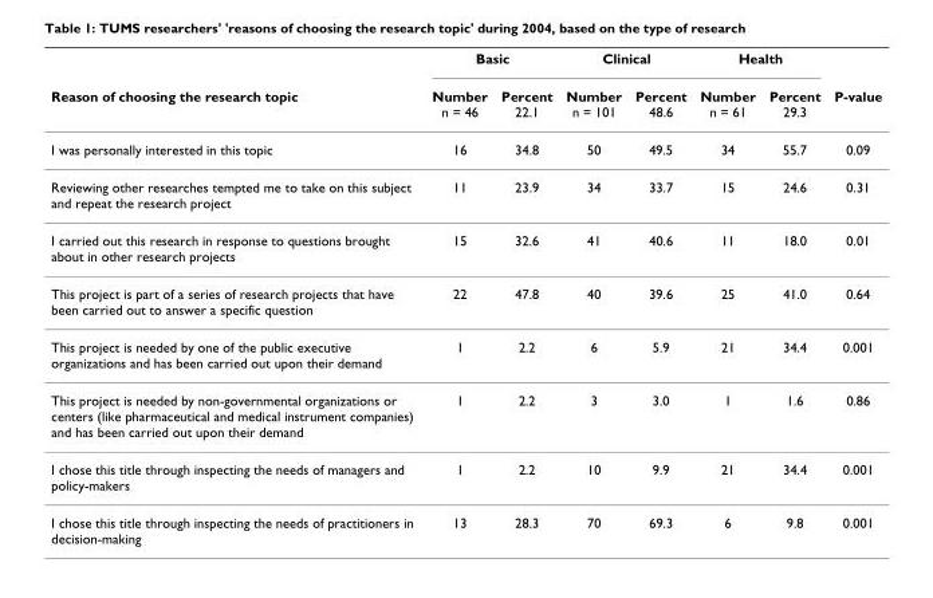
<table><thead><tr><td rowspan="2">Reason of choosing the research topic</td><td colspan="2">Basic</td><td colspan="2">Clinical</td><td colspan="2">Health</td><td rowspan="2">P-value</td></tr><tr><td>Number n = 46</td><td>Percent 22.1</td><td>Number n = 101</td><td>Percent 48.6</td><td>Number n = 61</td><td>Percent 29.3</td></tr></thead><tbody><tr><td>I was personally interested in this topic</td><td>16</td><td>34.8</td><td>50</td><td>49.5</td><td>34</td><td>55.7</td><td>0.09</td></tr><tr><td>Reviewing other researches tempted me to take on this subject and repeat the research project</td><td>11</td><td>23.9</td><td>34</td><td>33.7</td><td>15</td><td>24.6</td><td>0.31</td></tr><tr><td>I carried out this research in response to questions brought about in other research projects</td><td>15</td><td>32.6</td><td>41</td><td>40.6</td><td>11</td><td>18.0</td><td>0.01</td></tr><tr><td>This project is part of a series of research projects that have been carried out to answer a specific question</td><td>22</td><td>47.8</td><td>40</td><td>39.6</td><td>25</td><td>41.0</td><td>0.64</td></tr><tr><td>This project is needed by one of the public executive organizations and has been carried out upon their demand</td><td>1</td><td>2.2</td><td>6</td><td>5.9</td><td>21</td><td>34.4</td><td>0.001</td></tr><tr><td>This project is needed by non-governmental organizations or centers (like pharmaceutical and medical instrument companies) and has been carried out upon their demand</td><td>1</td><td>2.2</td><td>3</td><td>3.0</td><td>1</td><td>1.6</td><td>0.86</td></tr><tr><td>I chose this title through inspecting the needs of managers and policy-makers</td><td>1</td><td>2.2</td><td>10</td><td>9.9</td><td>21</td><td>34.4</td><td>0.001</td></tr><tr><td>I chose this title through inspecting the needs of practitioners in decision-making</td><td>13</td><td>28.3</td><td>70</td><td>69.3</td><td>6</td><td>9.8</td><td>0.001</td></tr></tbody></table>